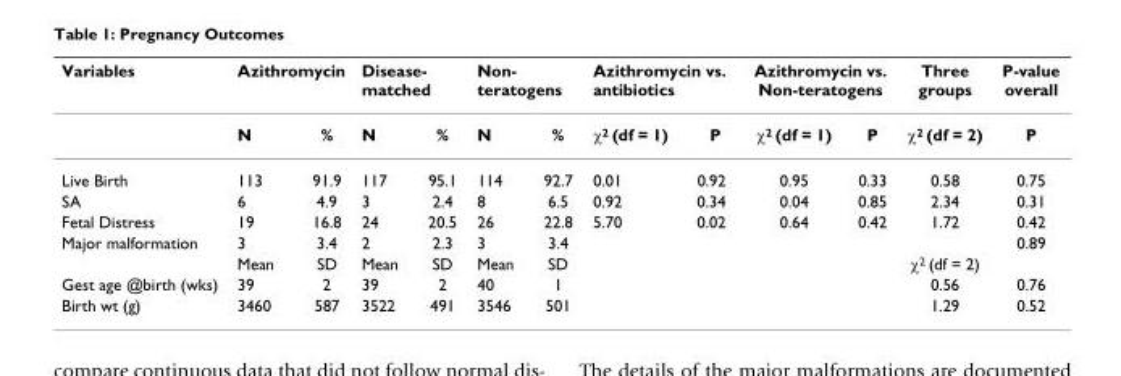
<table><thead><tr><td rowspan="2">Variables</td><td colspan="2">Azithromycin</td><td colspan="2">Disease- matched</td><td colspan="2">Non- teratogens</td><td colspan="2">Azithromycin vs. antibiotics</td><td colspan="2">Azithromycin vs. Non-teratogens</td><td rowspan="2">Three groups χ2 (df = 2)</td><td rowspan="2">P-value overall P</td></tr><tr><td>N</td><td>%</td><td>N</td><td>%</td><td>N</td><td>%</td><td>χ<sup>2</sup> (df = 1)</td><td>P</td><td>χ<sup>2</sup> (df = 1)</td><td>P</td></tr></thead><tbody><tr><td>Live Birth</td><td>113</td><td>91.9</td><td>117</td><td>95.1</td><td>114</td><td>92.7</td><td>0.01</td><td>0.92</td><td>0.95</td><td>0.33</td><td>0.58</td><td>0.75</td></tr><tr><td>SA</td><td>6</td><td>4.9</td><td>3</td><td>2.4</td><td>8</td><td>6.5</td><td>0.92</td><td>0.34</td><td>0.04</td><td>0.85</td><td>2.34</td><td>0.31</td></tr><tr><td>Fetal Distress</td><td>19</td><td>16.8</td><td>24</td><td>20.5</td><td>26</td><td>22.8</td><td>5.70</td><td>0.02</td><td>0.64</td><td>0.42</td><td>1.72</td><td>0.42</td></tr><tr><td rowspan="2">Major malformation</td><td>3</td><td>3.4</td><td>2</td><td>2.3</td><td>3</td><td>3.4</td><td></td><td></td><td></td><td></td><td></td><td>0.89</td></tr><tr><td>Mean</td><td>SD</td><td>Mean</td><td>SD</td><td>Mean</td><td>SD</td><td></td><td></td><td></td><td></td><td>χ2 (df = 2)</td><td></td></tr><tr><td>Gest age @birth (wks)</td><td>39</td><td>2</td><td>39</td><td>2</td><td>40</td><td>1</td><td></td><td></td><td></td><td></td><td>0.56</td><td>0.76</td></tr><tr><td>Birth wt (g)</td><td>3460</td><td>587</td><td>3522</td><td>491</td><td>3546</td><td>501</td><td></td><td></td><td></td><td></td><td>1.29</td><td>0.52</td></tr></tbody></table>